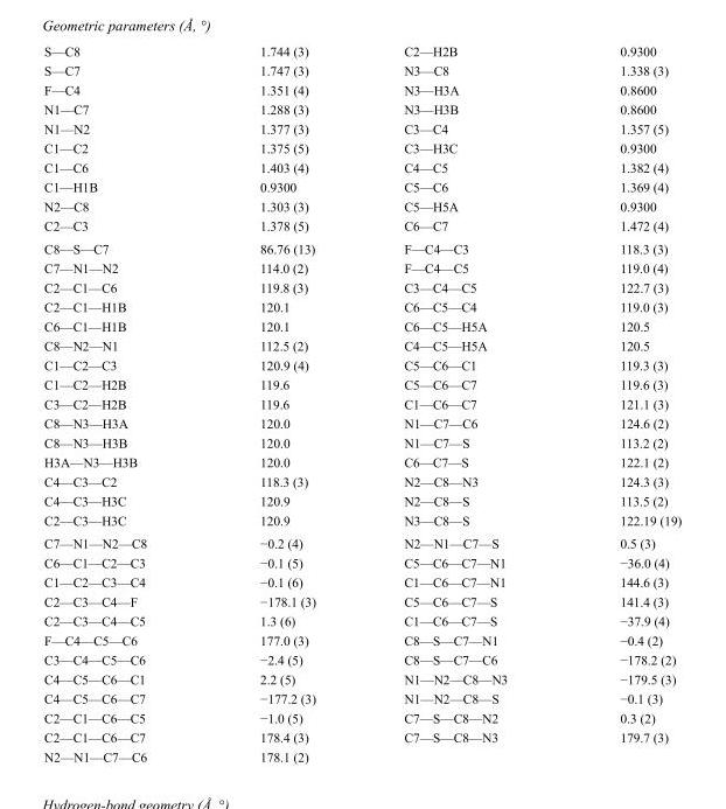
<table><tbody><tr><td>S—C8</td><td>1.744 (3)</td><td>C2—H2B</td><td>0.9300</td></tr><tr><td>S—C7</td><td>1.747 (3)</td><td>N3—C8</td><td>1.338 (3)</td></tr><tr><td>F—C4</td><td>1.351 (4)</td><td>N3—H3A</td><td>0.8600</td></tr><tr><td>N1—C7</td><td>1.288 (3)</td><td>N3—H3B</td><td>0.8600</td></tr><tr><td>N1—N2</td><td>1.377 (3)</td><td>C3—C4</td><td>1.357 (5)</td></tr><tr><td>C1—C2</td><td>1.375 (5)</td><td>C3—H3C</td><td>0.9300</td></tr><tr><td>C1—C6</td><td>1.403 (4)</td><td>C4—C5</td><td>1.382 (4)</td></tr><tr><td>C1—H1B</td><td>0.9300</td><td>C5—C6</td><td>1.369 (4)</td></tr><tr><td>N2—C8</td><td>1.303 (3)</td><td>C5—H5A</td><td>0.9300</td></tr><tr><td>C2—C3</td><td>1.378 (5)</td><td>C6—C7</td><td>1.472 (4)</td></tr><tr><td>C8—S—C7</td><td>86.76 (13)</td><td>F—C4—C3</td><td>118.3 (3)</td></tr><tr><td>C7—N1—N2</td><td>114.0 (2)</td><td>F—C4—C5</td><td>119.0 (4)</td></tr><tr><td>C2—C1—C6</td><td>119.8 (3)</td><td>C3—C4—C5</td><td>122.7 (3)</td></tr><tr><td>C2—C1—H1B</td><td>120.1</td><td>C6—C5—C4</td><td>119.0 (3)</td></tr><tr><td>C6—C1—H1B</td><td>120.1</td><td>C6—C5—H5A</td><td>120.5</td></tr><tr><td>C8—N2—N1</td><td>112.5 (2)</td><td>C4—C5—H5A</td><td>120.5</td></tr><tr><td>C1—C2—C3</td><td>120.9 (4)</td><td>C5—C6—C1</td><td>119.3 (3)</td></tr><tr><td>C1—C2—H2B</td><td>119.6</td><td>C5—C6—C7</td><td>119.6 (3)</td></tr><tr><td>C3—C2—H2B</td><td>119.6</td><td>C1—C6—C7</td><td>121.1 (3)</td></tr><tr><td>C8—N3—H3A</td><td>120.0</td><td>N1—C7—C6</td><td>124.6 (2)</td></tr><tr><td>C8—N3—H3B</td><td>120.0</td><td>N1—C7—S</td><td>113.2 (2)</td></tr><tr><td>H3A—N3—H3B</td><td>120.0</td><td>C6—C7—S</td><td>122.1 (2)</td></tr><tr><td>C4—C3—C2</td><td>118.3 (3)</td><td>N2—C8—N3</td><td>124.3 (3)</td></tr><tr><td>C4—C3—H3C</td><td>120.9</td><td>N2—C8—S</td><td>113.5 (2)</td></tr><tr><td>C2—C3—H3C</td><td>120.9</td><td>N3—C8—S</td><td>122.19 (19)</td></tr><tr><td>C7—N1—N2—C8</td><td>−0.2 (4)</td><td>N2—N1—C7—S</td><td>0.5 (3)</td></tr><tr><td>C6—C1—C2—C3</td><td>−0.1 (5)</td><td>C5—C6—C7—N1</td><td>−36.0 (4)</td></tr><tr><td>C1—C2—C3—C4</td><td>−0.1 (6)</td><td>C1—C6—C7—N1</td><td>144.6 (3)</td></tr><tr><td>C2—C3—C4—F</td><td>−178.1 (3)</td><td>C5—C6—C7—S</td><td>141.4 (3)</td></tr><tr><td>C2—C3—C4—C5</td><td>1.3 (6)</td><td>C1—C6—C7—S</td><td>−37.9 (4)</td></tr><tr><td>F—C4—C5—C6</td><td>177.0 (3)</td><td>C8—S—C7—N1</td><td>−0.4 (2)</td></tr><tr><td>C3—C4—C5—C6</td><td>−2.4 (5)</td><td>C8—S—C7—C6</td><td>−178.2 (2)</td></tr><tr><td>C4—C5—C6—C1</td><td>2.2 (5)</td><td>N1—N2—C8—N3</td><td>−179.5 (3)</td></tr><tr><td>C4—C5—C6—C7</td><td>−177.2 (3)</td><td>N1—N2—C8—S</td><td>−0.1 (3)</td></tr><tr><td>C2—C1—C6—C5</td><td>−1.0 (5)</td><td>C7—S—C8—N2</td><td>0.3 (2)</td></tr><tr><td>C2—C1—C6—C7</td><td>178.4 (3)</td><td>C7—S—C8—N3</td><td>179.7 (3)</td></tr><tr><td>N2—N1—C7—C6</td><td>178.1 (2)</td><td></td><td></td></tr></tbody></table>